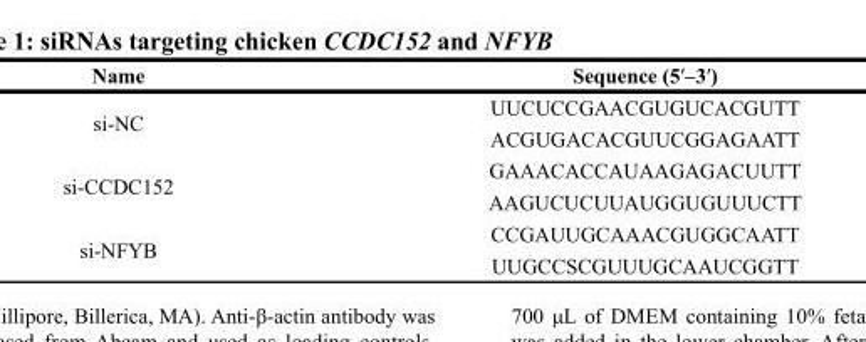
<table><thead><tr><td>Name</td><td>Sequence (5′–3′)</td></tr></thead><tbody><tr><td rowspan="2">si-NC</td><td>UUCUCCGAACGUGUCACGUTT</td></tr><tr><td>ACGUGACACGUUCGGAGAATT</td></tr><tr><td rowspan="2">si-CCDC152</td><td>GAAACACCAUAAGAGACUUTT</td></tr><tr><td>AAGUCUCUUAUGGUGUUUCTT</td></tr><tr><td rowspan="2">si-NFYB</td><td>CCGAUUGCAAACGUGGCAATT</td></tr><tr><td>UUGCCSCGUUUGCAAUCGGTT</td></tr></tbody></table>